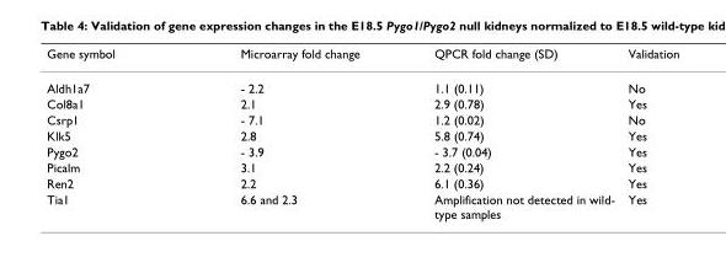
<table><thead><tr><td>Gene symbol</td><td>Microarray fold change</td><td>QPCR fold change (SD)</td><td>Validation</td></tr></thead><tbody><tr><td>Aldh1a7</td><td>- 2.2</td><td>1.1 (0.11)</td><td>No</td></tr><tr><td>Col8a1</td><td>2.1</td><td>2.9 (0.78)</td><td>Yes</td></tr><tr><td>Csrp1</td><td>- 7.1</td><td>1.2 (0.02)</td><td>No</td></tr><tr><td>Klk5</td><td>2.8</td><td>5.8 (0.74)</td><td>Yes</td></tr><tr><td>Pygo2</td><td>- 3.9</td><td>- 3.7 (0.04)</td><td>Yes</td></tr><tr><td>Picalm</td><td>3.1</td><td>2.2 (0.24)</td><td>Yes</td></tr><tr><td>Ren2</td><td>2.2</td><td>6.1 (0.36)</td><td>Yes</td></tr><tr><td>Tia1</td><td>6.6 and 2.3</td><td>Amplification not detected in wild- type samples</td><td>Yes</td></tr></tbody></table>